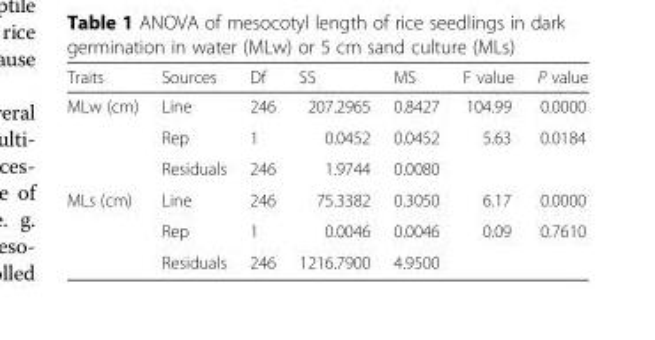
<table><thead><tr><td>Traits</td><td>Sources</td><td>Df</td><td>SS</td><td>MS</td><td>F value</td><td>P value</td></tr></thead><tbody><tr><td rowspan="3">MLw (cm)</td><td>Line</td><td>246</td><td>207.2965</td><td>0.8427</td><td>104.99</td><td>0.0000</td></tr><tr><td>Rep</td><td>1</td><td>0.0452</td><td>0.0452</td><td>5.63</td><td>0.0184</td></tr><tr><td>Residuals</td><td>246</td><td>1.9744</td><td>0.0080</td><td></td><td></td></tr><tr><td rowspan="3">MLs (cm)</td><td>Line</td><td>246</td><td>75.3382</td><td>0.3050</td><td>6.17</td><td>0.0000</td></tr><tr><td>Rep</td><td>1</td><td>0.0046</td><td>0.0046</td><td>0.09</td><td>0.7610</td></tr><tr><td>Residuals</td><td>246</td><td>1216.7900</td><td>4.9500</td><td></td><td></td></tr></tbody></table>